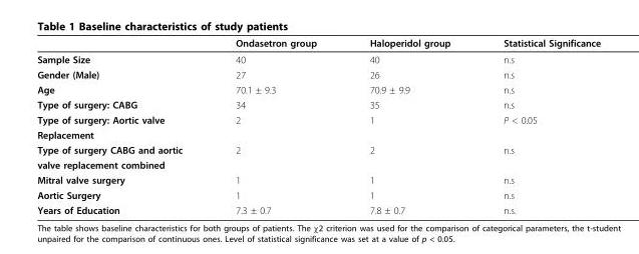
<table><thead><tr><td></td><td>Ondasetron group</td><td>Haloperidol group</td><td>Statistical Significance</td></tr></thead><tbody><tr><td>Sample Size</td><td>40</td><td>40</td><td>n.s</td></tr><tr><td>Gender (Male)</td><td>27</td><td>26</td><td>n.s</td></tr><tr><td>Age</td><td>70.1 ± 9.3</td><td>70.9 ± 9.9</td><td>n.s</td></tr><tr><td>Type of surgery: CABG</td><td>34</td><td>35</td><td>n.s</td></tr><tr><td>Type of surgery: Aortic valve</td><td>2</td><td>1</td><td>P &lt; 0.05</td></tr><tr><td colspan="4">Replacement</td></tr><tr><td>Type of surgery CABG and aortic</td><td>2</td><td>2</td><td>n.s</td></tr><tr><td colspan="4">valve replacement combined</td></tr><tr><td>Mitral valve surgery</td><td>1</td><td>1</td><td>n.s</td></tr><tr><td>Aortic Surgery</td><td>1</td><td>1</td><td>n.s</td></tr><tr><td>Years of Education</td><td>7.3 ± 0.7</td><td>7.8 ± 0.7</td><td>n.s.</td></tr></tbody></table>